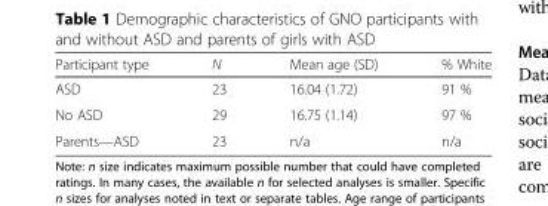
<table><thead><tr><td>Participant type</td><td>N</td><td>Mean age (SD)</td><td>% White</td></tr></thead><tbody><tr><td>ASD</td><td>23</td><td>16.04 (1.72)</td><td>91 %</td></tr><tr><td>No ASD</td><td>29</td><td>16.75 (1.14)</td><td>97 %</td></tr><tr><td>Parents—ASD</td><td>23</td><td>n/a</td><td>n/a</td></tr></tbody></table>